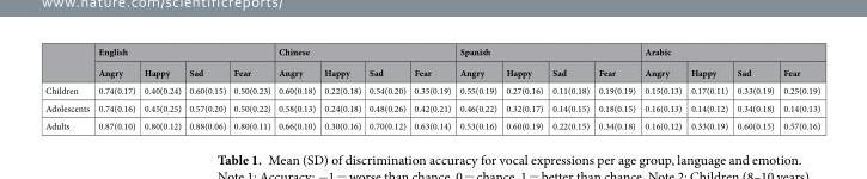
<table><thead><tr><td rowspan="2"></td><td colspan="4">English</td><td colspan="4">Chinese</td><td colspan="4">Spanish</td><td colspan="4">Arabic</td></tr><tr><td>Angry</td><td>Happy</td><td>Sad</td><td>Fear</td><td>Angry</td><td>Happy</td><td>Sad</td><td>Fear</td><td>Angry</td><td>Happy</td><td>Sad</td><td>Fear</td><td>Angry</td><td>Happy</td><td>Sad</td><td>Fear</td></tr></thead><tbody><tr><td>Children</td><td>0.74(0.17)</td><td>0.40(0.24)</td><td>0.60(0.15)</td><td>0.50(0.23)</td><td>0.60(0.18)</td><td>0.22(0.18)</td><td>0.54(0.20)</td><td>0.35(0.19)</td><td>0.55(0.19)</td><td>0.27(0.16)</td><td>0.11(0.18)</td><td>0.19(0.19)</td><td>0.15(0.13)</td><td>0.17(0.11)</td><td>0.33(0.19)</td><td>0.25(0.19)</td></tr><tr><td>Adolescents</td><td>0.74(0.16)</td><td>0.45(0.25)</td><td>0.57(0.20)</td><td>0.50(0.22)</td><td>0.58(0.13)</td><td>0.24(0.18)</td><td>0.48(0.26)</td><td>0.42(0.21)</td><td>0.46(0.22)</td><td>0.32(0.17)</td><td>0.14(0.15)</td><td>0.18(0.15)</td><td>0.16(0.13)</td><td>0.14(0.12)</td><td>0.34(0.18)</td><td>0.14(0.13)</td></tr><tr><td>Adults</td><td>0.87(0.10)</td><td>0.80(0.12)</td><td>0.88(0.06)</td><td>0.80(0.11)</td><td>0.66(0.10)</td><td>0.30(0.16)</td><td>0.70(0.12)</td><td>0.63(0.14)</td><td>0.53(0.16)</td><td>0.60(0.19)</td><td>0.22(0.15)</td><td>0.34(0.18)</td><td>0.16(0.12)</td><td>0.33(0.19)</td><td>0.60(0.15)</td><td>0.57(0.16)</td></tr></tbody></table>